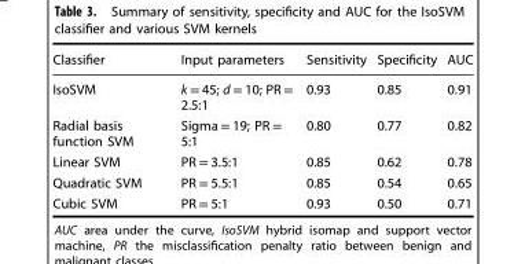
<table><thead><tr><td>Classifier</td><td>Input parameters</td><td>Sensitivity</td><td>Specificity</td><td>AUC</td></tr></thead><tbody><tr><td>IsoSVM</td><td>k = 45; d = 10; PR = 2.5:1</td><td>0.93</td><td>0.85</td><td>0.91</td></tr><tr><td>Radial basis function SVM</td><td>Sigma = 19; PR = 5:1</td><td>0.80</td><td>0.77</td><td>0.82</td></tr><tr><td>Linear SVM</td><td>PR = 3.5:1</td><td>0.85</td><td>0.62</td><td>0.78</td></tr><tr><td>Quadratic SVM</td><td>PR = 5.5:1</td><td>0.85</td><td>0.54</td><td>0.65</td></tr><tr><td>Cubic SVM</td><td>PR = 5:1</td><td>0.93</td><td>0.50</td><td>0.71</td></tr></tbody></table>